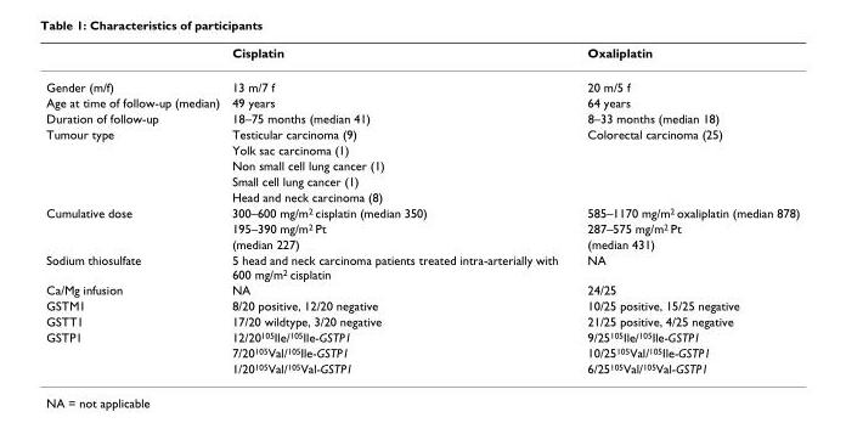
<table><thead><tr><td></td><td>Cisplatin</td><td>Oxaliplatin</td></tr></thead><tbody><tr><td>Gender (m/f)</td><td>13 m/7 f</td><td>20 m/5 f</td></tr><tr><td>Age at time of follow-up (median)</td><td>49 years</td><td>64 years</td></tr><tr><td>Duration of follow-up</td><td>18–75 months (median 41)</td><td>8–33 months (median 18)</td></tr><tr><td rowspan="5">Tumour type</td><td>Testicular carcinoma (9)</td><td>Colorectal carcinoma (25)</td></tr><tr><td>Yolk sac carcinoma (1)</td><td></td></tr><tr><td>Non small cell lung cancer (1)</td><td></td></tr><tr><td>Small cell lung cancer (1)</td><td></td></tr><tr><td>Head and neck carcinoma (8)</td><td></td></tr><tr><td rowspan="3">Cumulative dose</td><td>300–600 mg/m<sup>2</sup> cisplatin (median 350)</td><td>585–1170 mg/m<sup>2</sup> oxaliplatin (median 878)</td></tr><tr><td>195–390 mg/m<sup>2</sup> Pt</td><td>287–575 mg/m<sup>2</sup> Pt</td></tr><tr><td>(median 227)</td><td>(median 431)</td></tr><tr><td>Sodium thiosulfate</td><td>5 head and neck carcinoma patients treated intra-arterially with 600 mg/m<sup>2</sup> cisplatin</td><td>NA</td></tr><tr><td>Ca/Mg infusion</td><td>NA</td><td>24/25</td></tr><tr><td>GSTM1</td><td>8/20 positive, 12/20 negative</td><td>10/25 positive, 15/25 negative</td></tr><tr><td>GSTT1</td><td>17/20 wildtype, 3/20 negative</td><td>21/25 positive, 4/25 negative</td></tr><tr><td rowspan="3">GSTP1</td><td>12/20<sup>105</sup>Ile/<sup>105</sup>Ile-GSTP1</td><td>9/25<sup>105</sup>Ile/<sup>105</sup>Ile-GSTP1</td></tr><tr><td>7/20<sup>105</sup>Val/<sup>105</sup>Ile-GSTP1</td><td>10/25<sup>105</sup>Val/<sup>105</sup>Ile-GSTP1</td></tr><tr><td>1/20<sup>105</sup>Val/<sup>105</sup>Val-GSTP1</td><td>6/25<sup>105</sup>Val/<sup>105</sup>Val-GSTP1</td></tr></tbody></table>